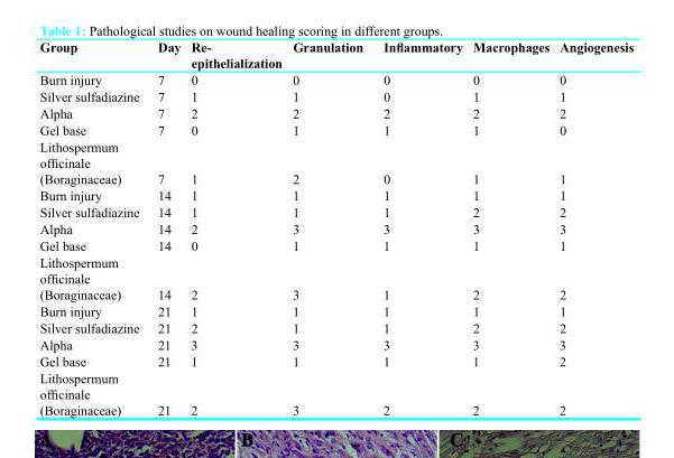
<table><thead><tr><td>Group</td><td>Day</td><td>Re- epithelialization</td><td>Granulation</td><td>Inflammatory</td><td>Macrophages</td><td>Angiogenesis</td></tr></thead><tbody><tr><td>Burn injury</td><td>7</td><td>0</td><td>0</td><td>0</td><td>0</td><td>0</td></tr><tr><td>Silver sulfadiazine</td><td>7</td><td>1</td><td>1</td><td>0</td><td>1</td><td>1</td></tr><tr><td>Alpha</td><td>7</td><td>2</td><td>2</td><td>2</td><td>2</td><td>2</td></tr><tr><td>Gel base</td><td>7</td><td>0</td><td>1</td><td>1</td><td>1</td><td>0</td></tr><tr><td>Lithospermum officinale (Boraginaceae)</td><td>7</td><td>1</td><td>2</td><td>0</td><td>1</td><td>1</td></tr><tr><td>Burn injury</td><td>14</td><td>1</td><td>1</td><td>1</td><td>1</td><td>1</td></tr><tr><td>Silver sulfadiazine</td><td>14</td><td>1</td><td>1</td><td>1</td><td>2</td><td>2</td></tr><tr><td>Alpha</td><td>14</td><td>2</td><td>3</td><td>3</td><td>3</td><td>3</td></tr><tr><td>Gel base</td><td>14</td><td>0</td><td>1</td><td>1</td><td>1</td><td>1</td></tr><tr><td>Lithospermum officinale (Boraginaceae)</td><td>14</td><td>2</td><td>3</td><td>1</td><td>2</td><td>2</td></tr><tr><td>Burn injury</td><td>21</td><td>1</td><td>1</td><td>1</td><td>1</td><td>1</td></tr><tr><td>Silver sulfadiazine</td><td>21</td><td>2</td><td>1</td><td>1</td><td>2</td><td>2</td></tr><tr><td>Alpha</td><td>21</td><td>3</td><td>3</td><td>3</td><td>3</td><td>3</td></tr><tr><td>Gel base</td><td>21</td><td>1</td><td>1</td><td>1</td><td>1</td><td>2</td></tr><tr><td>Lithospermum officinale (Boraginaceae)</td><td>21</td><td>2</td><td>3</td><td>2</td><td>2</td><td>2</td></tr></tbody></table>